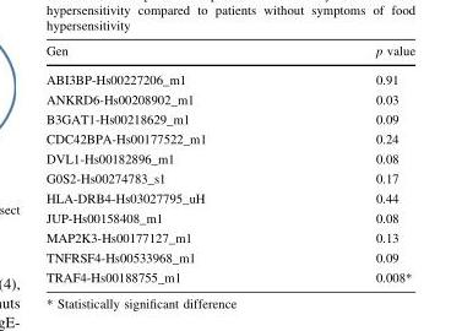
<table><thead><tr><td>Gen</td><td>p value</td></tr></thead><tbody><tr><td>ABI3BP-Hs00227206_m1</td><td>0.91</td></tr><tr><td>ANKRD6-Hs00208902_m1</td><td>0.03</td></tr><tr><td>B3GAT1-Hs00218629_m1</td><td>0.09</td></tr><tr><td>CDC42BPA-Hs00177522_m1</td><td>0.24</td></tr><tr><td>DVL1-Hs00182896_m1</td><td>0.08</td></tr><tr><td>G0S2-Hs00274783_s1</td><td>0.17</td></tr><tr><td>HLA-DRB4-Hs03027795_uH</td><td>0.44</td></tr><tr><td>JUP-Hs00158408_m1</td><td>0.08</td></tr><tr><td>MAP2K3-Hs00177127_m1</td><td>0.13</td></tr><tr><td>TNFRSF4-Hs00533968_m1</td><td>0.09</td></tr><tr><td>TRAF4-Hs00188755_m1</td><td>0.008*</td></tr></tbody></table>